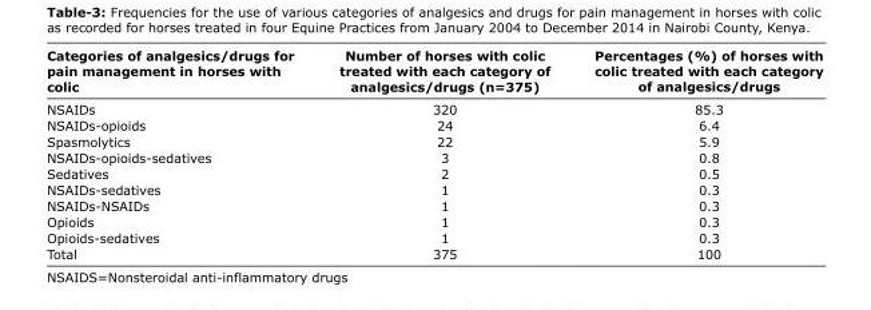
<table><thead><tr><td>Categories of analgesics/drugs for pain management in horses with colic</td><td>Number of horses with colic treated with each category of analgesics/drugs (n=375)</td><td>Percentages (%) of horses with colic treated with each category of analgesics/drugs</td></tr></thead><tbody><tr><td>NSAIDs</td><td>320</td><td>85.3</td></tr><tr><td>NSAIDs-opioids</td><td>24</td><td>6.4</td></tr><tr><td>Spasmolytics</td><td>22</td><td>5.9</td></tr><tr><td>NSAIDs-opioids-sedatives</td><td>3</td><td>0.8</td></tr><tr><td>Sedatives</td><td>2</td><td>0.5</td></tr><tr><td>NSAIDs-sedatives</td><td>1</td><td>0.3</td></tr><tr><td>NSAIDs-NSAIDs</td><td>1</td><td>0.3</td></tr><tr><td>Opioids</td><td>1</td><td>0.3</td></tr><tr><td>Opioids-sedatives</td><td>1</td><td>0.3</td></tr><tr><td>Total</td><td>375</td><td>100</td></tr></tbody></table>